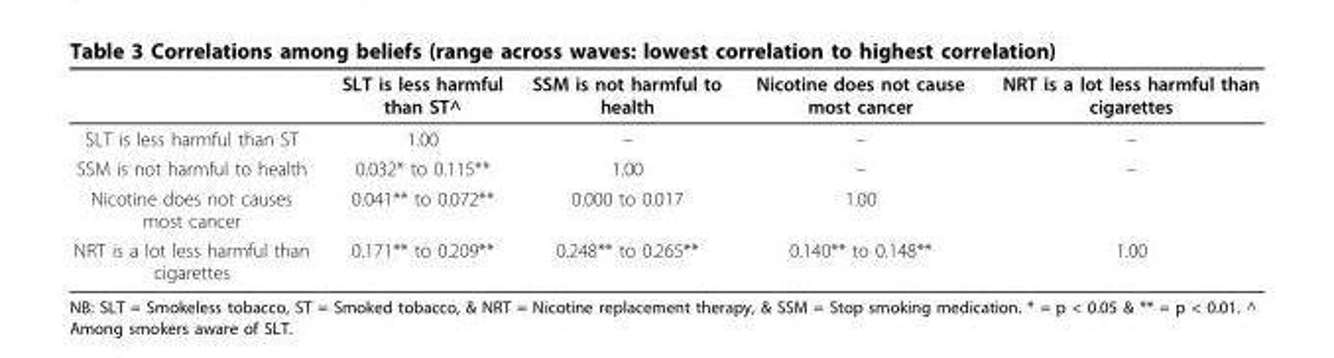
<table><thead><tr><td></td><td>SLT is less harmful than ST^</td><td>SSM is not harmful to health</td><td>Nicotine does not cause most cancer</td><td>NRT is a lot less harmful than cigarettes</td></tr></thead><tbody><tr><td>SLT is less harmful than ST</td><td>1.00</td><td>–</td><td>–</td><td>–</td></tr><tr><td>SSM is not harmful to health</td><td>0.032* to 0.115**</td><td>1.00</td><td>–</td><td>–</td></tr><tr><td>Nicotine does not causes most cancer</td><td>0.041** to 0.072**</td><td>0.000 to 0.017</td><td>1.00</td><td></td></tr><tr><td>NRT is a lot less harmful than cigarettes</td><td>0.171** to 0.209**</td><td>0.248** to 0.265**</td><td>0.140** to 0.148**</td><td>1.00</td></tr></tbody></table>